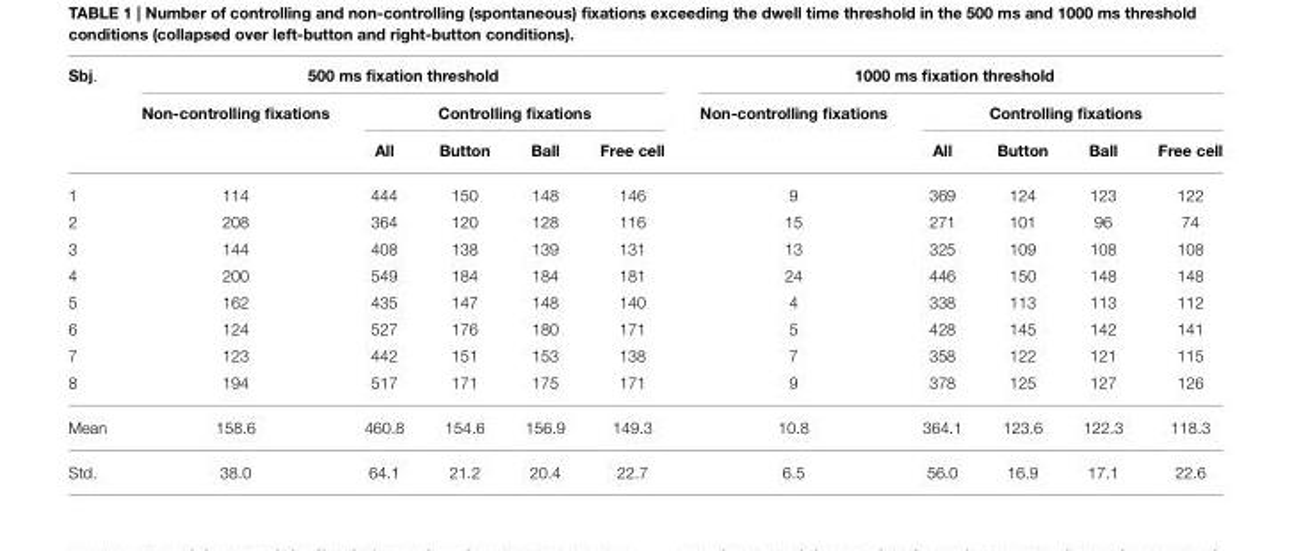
<table><thead><tr><td rowspan="3">Sbj.</td><td colspan="5">500 ms fixation threshold</td><td colspan="5">1000 ms fixation threshold</td></tr><tr><td rowspan="2">Non-controlling fixations</td><td colspan="4">Controlling fixations</td><td rowspan="2">Non-controlling fixations</td><td colspan="4">Controlling fixations</td></tr><tr><td>All</td><td>Button</td><td>Ball</td><td>Free cell</td><td>All</td><td>Button</td><td>Ball</td><td>Free cell</td></tr></thead><tbody><tr><td>1</td><td>114</td><td>444</td><td>150</td><td>148</td><td>146</td><td>9</td><td>369</td><td>124</td><td>123</td><td>122</td></tr><tr><td>2</td><td>208</td><td>364</td><td>120</td><td>128</td><td>116</td><td>15</td><td>271</td><td>101</td><td>96</td><td>74</td></tr><tr><td>3</td><td>144</td><td>408</td><td>138</td><td>139</td><td>131</td><td>13</td><td>325</td><td>109</td><td>108</td><td>108</td></tr><tr><td>4</td><td>200</td><td>549</td><td>184</td><td>184</td><td>181</td><td>24</td><td>446</td><td>150</td><td>148</td><td>148</td></tr><tr><td>5</td><td>162</td><td>435</td><td>147</td><td>148</td><td>140</td><td>4</td><td>338</td><td>113</td><td>113</td><td>112</td></tr><tr><td>6</td><td>124</td><td>527</td><td>176</td><td>180</td><td>171</td><td>5</td><td>428</td><td>145</td><td>142</td><td>141</td></tr><tr><td>7</td><td>123</td><td>442</td><td>151</td><td>153</td><td>138</td><td>7</td><td>358</td><td>122</td><td>121</td><td>115</td></tr><tr><td>8</td><td>194</td><td>517</td><td>171</td><td>175</td><td>171</td><td>9</td><td>378</td><td>125</td><td>127</td><td>126</td></tr><tr><td>Mean</td><td>158.6</td><td>460.8</td><td>154.6</td><td>156.9</td><td>149.3</td><td>10.8</td><td>364.1</td><td>123.6</td><td>122.3</td><td>118.3</td></tr><tr><td>Std.</td><td>38.0</td><td>64.1</td><td>21.2</td><td>20.4</td><td>22.7</td><td>6.5</td><td>56.0</td><td>16.9</td><td>17.1</td><td>22.6</td></tr></tbody></table>